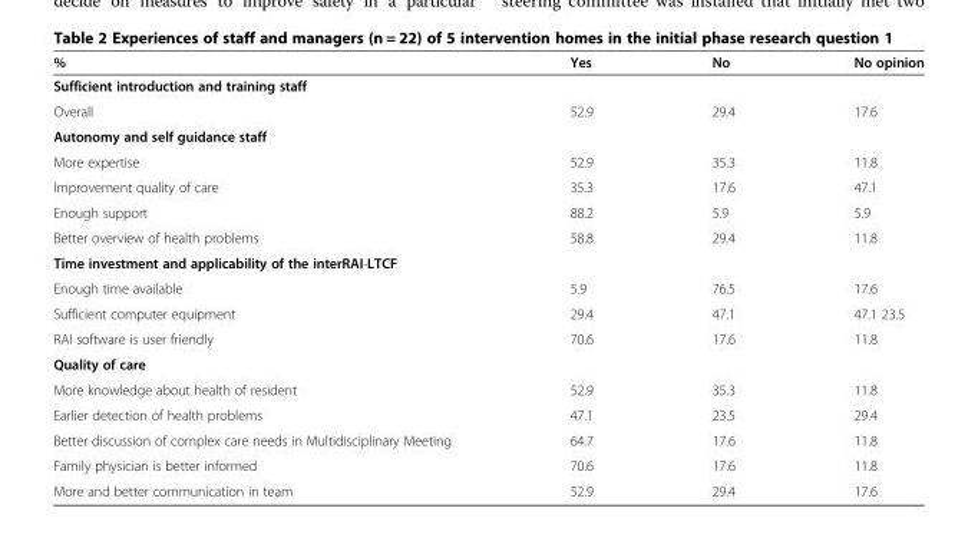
<table><thead><tr><td>%</td><td>Yes</td><td>No</td><td>No opinion</td></tr></thead><tbody><tr><td colspan="4">Sufficient introduction and training staff</td></tr><tr><td>Overall</td><td>52.9</td><td>29.4</td><td>17.6</td></tr><tr><td colspan="4">Autonomy and self guidance staff</td></tr><tr><td>More expertise</td><td>52.9</td><td>35.3</td><td>11.8</td></tr><tr><td>Improvement quality of care</td><td>35.3</td><td>17.6</td><td>47.1</td></tr><tr><td>Enough support</td><td>88.2</td><td>5.9</td><td>5.9</td></tr><tr><td>Better overview of health problems</td><td>58.8</td><td>29.4</td><td>11.8</td></tr><tr><td colspan="4">Time investment and applicability of the interRAI-LTCF</td></tr><tr><td>Enough time available</td><td>5.9</td><td>76.5</td><td>17.6</td></tr><tr><td>Sufficient computer equipment</td><td>29.4</td><td>47.1</td><td>47.1 23.5</td></tr><tr><td>RAI software is user friendly</td><td>70.6</td><td>17.6</td><td>11.8</td></tr><tr><td colspan="4">Quality of care</td></tr><tr><td>More knowledge about health of resident</td><td>52.9</td><td>35.3</td><td>11.8</td></tr><tr><td>Earlier detection of health problems</td><td>47.1</td><td>23.5</td><td>29.4</td></tr><tr><td>Better discussion of complex care needs in Multidisciplinary Meeting</td><td>64.7</td><td>17.6</td><td>11.8</td></tr><tr><td>Family physician is better informed</td><td>70.6</td><td>17.6</td><td>11.8</td></tr><tr><td>More and better communication in team</td><td>52.9</td><td>29.4</td><td>17.6</td></tr></tbody></table>